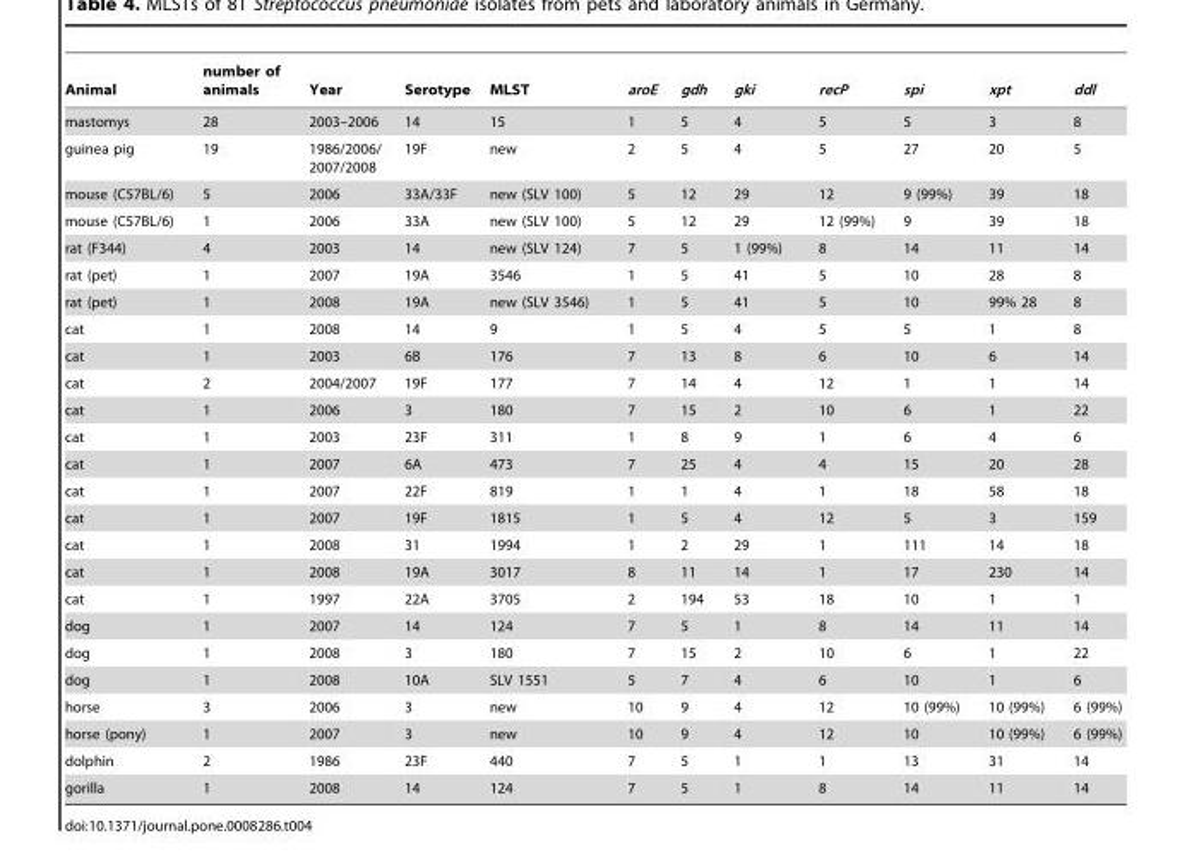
<table><thead><tr><td>Animal</td><td>number of animals</td><td>Year</td><td>Serotype</td><td>MLST</td><td>aroE</td><td>gdh</td><td>gki</td><td>recP</td><td>spi</td><td>xpt</td><td>ddl</td></tr></thead><tbody><tr><td>mastomys</td><td>28</td><td>2003–2006</td><td>14</td><td>15</td><td>1</td><td>5</td><td>4</td><td>5</td><td>5</td><td>3</td><td>8</td></tr><tr><td>guinea pig</td><td>19</td><td>1986/2006/ 2007/2008</td><td>19F</td><td>new</td><td>2</td><td>5</td><td>4</td><td>5</td><td>27</td><td>20</td><td>5</td></tr><tr><td>mouse (C57BL/6)</td><td>5</td><td>2006</td><td>33A/33F</td><td>new (SLV 100)</td><td>5</td><td>12</td><td>29</td><td>12</td><td>9 (99%)</td><td>39</td><td>18</td></tr><tr><td>mouse (C57BL/6)</td><td>1</td><td>2006</td><td>33A</td><td>new (SLV 100)</td><td>5</td><td>12</td><td>29</td><td>12 (99%)</td><td>9</td><td>39</td><td>18</td></tr><tr><td>rat (F344)</td><td>4</td><td>2003</td><td>14</td><td>new (SLV 124)</td><td>7</td><td>5</td><td>1 (99%)</td><td>8</td><td>14</td><td>11</td><td>14</td></tr><tr><td>rat (pet)</td><td>1</td><td>2007</td><td>19A</td><td>3546</td><td>1</td><td>5</td><td>41</td><td>5</td><td>10</td><td>28</td><td>8</td></tr><tr><td>rat (pet)</td><td>1</td><td>2008</td><td>19A</td><td>new (SLV 3546)</td><td>1</td><td>5</td><td>41</td><td>5</td><td>10</td><td>99% 28</td><td>8</td></tr><tr><td>cat</td><td>1</td><td>2008</td><td>14</td><td>9</td><td>1</td><td>5</td><td>4</td><td>5</td><td>5</td><td>1</td><td>8</td></tr><tr><td>cat</td><td>1</td><td>2003</td><td>6B</td><td>176</td><td>7</td><td>13</td><td>8</td><td>6</td><td>10</td><td>6</td><td>14</td></tr><tr><td>cat</td><td>2</td><td>2004/2007</td><td>19F</td><td>177</td><td>7</td><td>14</td><td>4</td><td>12</td><td>1</td><td>1</td><td>14</td></tr><tr><td>cat</td><td>1</td><td>2006</td><td>3</td><td>180</td><td>7</td><td>15</td><td>2</td><td>10</td><td>6</td><td>1</td><td>22</td></tr><tr><td>cat</td><td>1</td><td>2003</td><td>23F</td><td>311</td><td>1</td><td>8</td><td>9</td><td>1</td><td>6</td><td>4</td><td>6</td></tr><tr><td>cat</td><td>1</td><td>2007</td><td>6A</td><td>473</td><td>7</td><td>25</td><td>4</td><td>4</td><td>15</td><td>20</td><td>28</td></tr><tr><td>cat</td><td>1</td><td>2007</td><td>22F</td><td>819</td><td>1</td><td>1</td><td>4</td><td>1</td><td>18</td><td>58</td><td>18</td></tr><tr><td>cat</td><td>1</td><td>2007</td><td>19F</td><td>1815</td><td>1</td><td>5</td><td>4</td><td>12</td><td>5</td><td>3</td><td>159</td></tr><tr><td>cat</td><td>1</td><td>2008</td><td>31</td><td>1994</td><td>1</td><td>2</td><td>29</td><td>1</td><td>111</td><td>14</td><td>18</td></tr><tr><td>cat</td><td>1</td><td>2008</td><td>19A</td><td>3017</td><td>8</td><td>11</td><td>14</td><td>1</td><td>17</td><td>230</td><td>14</td></tr><tr><td>cat</td><td>1</td><td>1997</td><td>22A</td><td>3705</td><td>2</td><td>194</td><td>53</td><td>18</td><td>10</td><td>1</td><td>1</td></tr><tr><td>dog</td><td>1</td><td>2007</td><td>14</td><td>124</td><td>7</td><td>5</td><td>1</td><td>8</td><td>14</td><td>11</td><td>14</td></tr><tr><td>dog</td><td>1</td><td>2008</td><td>3</td><td>180</td><td>7</td><td>15</td><td>2</td><td>10</td><td>6</td><td>1</td><td>22</td></tr><tr><td>dog</td><td>1</td><td>2008</td><td>10A</td><td>SLV 1551</td><td>5</td><td>7</td><td>4</td><td>6</td><td>10</td><td>1</td><td>6</td></tr><tr><td>horse</td><td>3</td><td>2006</td><td>3</td><td>new</td><td>10</td><td>9</td><td>4</td><td>12</td><td>10 (99%)</td><td>10 (99%)</td><td>6 (99%)</td></tr><tr><td>horse (pony)</td><td>1</td><td>2007</td><td>3</td><td>new</td><td>10</td><td>9</td><td>4</td><td>12</td><td>10</td><td>10 (99%)</td><td>6 (99%)</td></tr><tr><td>dolphin</td><td>2</td><td>1986</td><td>23F</td><td>440</td><td>7</td><td>5</td><td>1</td><td>1</td><td>13</td><td>31</td><td>14</td></tr><tr><td>gorilla</td><td>1</td><td>2008</td><td>14</td><td>124</td><td>7</td><td>5</td><td>1</td><td>8</td><td>14</td><td>11</td><td>14</td></tr></tbody></table>